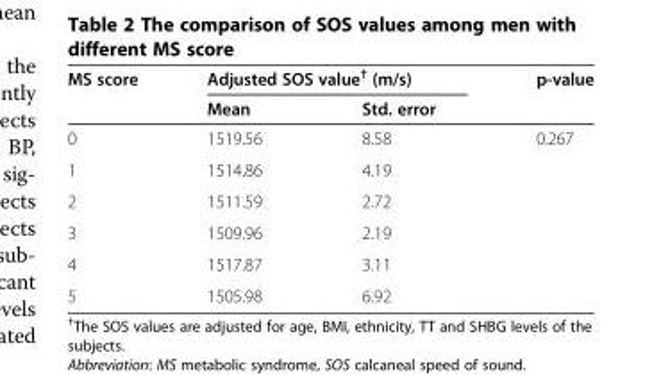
<table><thead><tr><td rowspan="2">MS score</td><td colspan="2">Adjusted SOS value<sup>†</sup> (m/s)</td><td rowspan="2">p-value</td></tr><tr><td>Mean</td><td>Std. error</td></tr></thead><tbody><tr><td>0</td><td>1519.56</td><td>8.58</td><td>0.267</td></tr><tr><td>1</td><td>1514.86</td><td>4.19</td><td></td></tr><tr><td>2</td><td>1511.59</td><td>2.72</td><td></td></tr><tr><td>3</td><td>1509.96</td><td>2.19</td><td></td></tr><tr><td>4</td><td>1517.87</td><td>3.11</td><td></td></tr><tr><td>5</td><td>1505.98</td><td>6.92</td><td></td></tr></tbody></table>